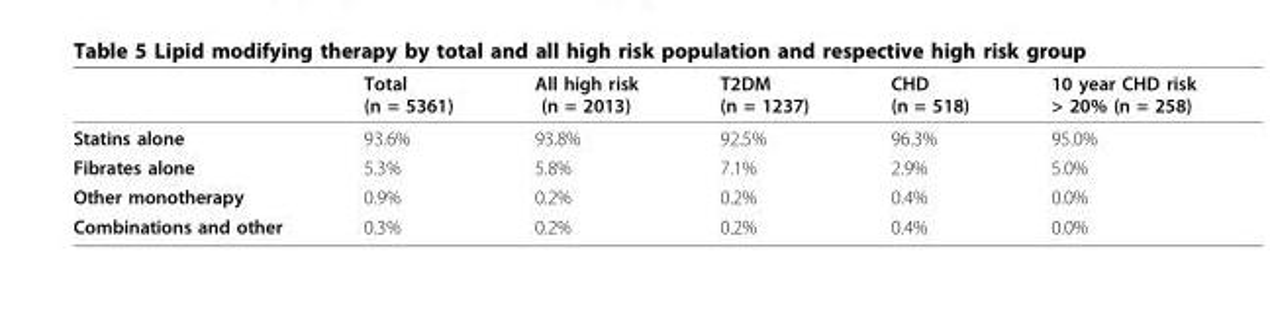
<table><thead><tr><td></td><td>Total (n = 5361)</td><td>All high risk (n = 2013)</td><td>T2DM (n = 1237)</td><td>CHD (n = 518)</td><td>10 year CHD risk &gt; 20% (n = 258)</td></tr></thead><tbody><tr><td>Statins alone</td><td>93.6%</td><td>93.8%</td><td>92.5%</td><td>96.3%</td><td>95.0%</td></tr><tr><td>Fibrates alone</td><td>5.3%</td><td>5.8%</td><td>7.1%</td><td>2.9%</td><td>5.0%</td></tr><tr><td>Other monotherapy</td><td>0.9%</td><td>0.2%</td><td>0.2%</td><td>0.4%</td><td>0.0%</td></tr><tr><td>Combinations and other</td><td>0.3%</td><td>0.2%</td><td>0.2%</td><td>0.4%</td><td>0.0%</td></tr></tbody></table>